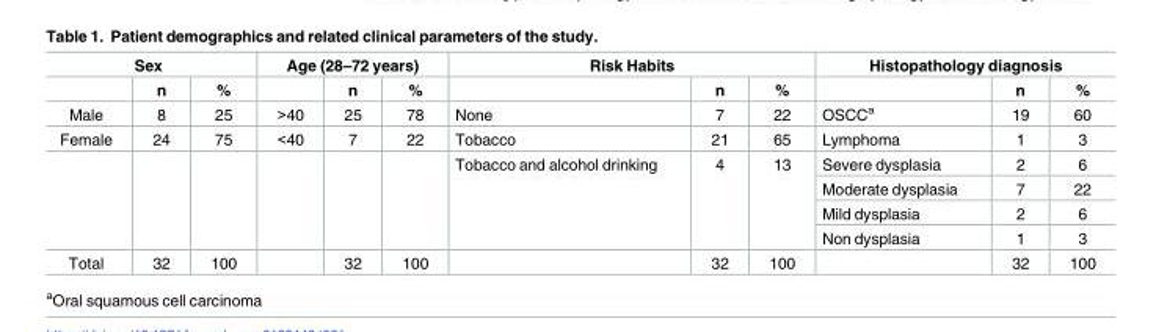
<table><thead><tr><td colspan="3">Sex</td><td colspan="3">Age (28–72 years)</td><td colspan="3">Risk Habits</td><td colspan="3">Histopathology diagnosis</td></tr><tr><td></td><td>n</td><td>%</td><td></td><td>n</td><td>%</td><td></td><td>n</td><td>%</td><td></td><td>n</td><td>%</td></tr></thead><tbody><tr><td>Male</td><td>8</td><td>25</td><td>&gt;40</td><td>25</td><td>78</td><td>None</td><td>7</td><td>22</td><td>OSCC<sup>a</sup></td><td>19</td><td>60</td></tr><tr><td rowspan="5">Female</td><td>24</td><td>75</td><td>&lt;40</td><td>7</td><td>22</td><td>Tobacco</td><td>21</td><td>65</td><td>Lymphoma</td><td>1</td><td>3</td></tr><tr><td rowspan="4"></td><td rowspan="4"></td><td rowspan="4"></td><td rowspan="4"></td><td rowspan="4"></td><td rowspan="4">Tobacco and alcohol drinking</td><td rowspan="4">4</td><td rowspan="4">13</td><td>Severe dysplasia</td><td>2</td><td>6</td></tr><tr><td>Moderate dysplasia</td><td>7</td><td>22</td></tr><tr><td>Mild dysplasia</td><td>2</td><td>6</td></tr><tr><td>Non dysplasia</td><td>1</td><td>3</td></tr><tr><td>Total</td><td>32</td><td>100</td><td></td><td>32</td><td>100</td><td></td><td>32</td><td>100</td><td></td><td>32</td><td>100</td></tr></tbody></table>